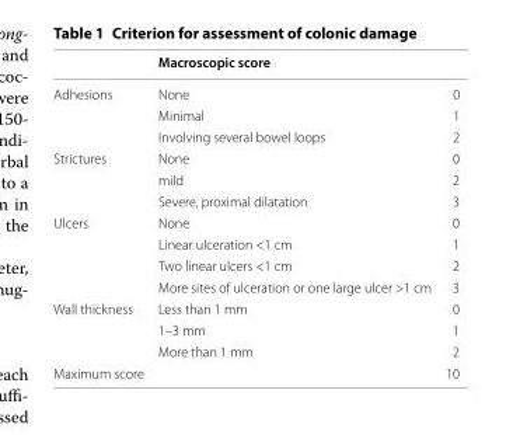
<table><thead><tr><td></td><td>Macroscopic score</td><td></td></tr></thead><tbody><tr><td rowspan="3">Adhesions</td><td>None</td><td>0</td></tr><tr><td>Minimal</td><td>1</td></tr><tr><td>Involving several bowel loops</td><td>2</td></tr><tr><td rowspan="3">Strictures</td><td>None</td><td>0</td></tr><tr><td>mild</td><td>2</td></tr><tr><td>Severe, proximal dilatation</td><td>3</td></tr><tr><td rowspan="4">Ulcers</td><td>None</td><td>0</td></tr><tr><td>Linear ulceration &lt;1 cm</td><td>1</td></tr><tr><td>Two linear ulcers &lt;1 cm</td><td>2</td></tr><tr><td>More sites of ulceration or one large ulcer &gt;1 cm</td><td>3</td></tr><tr><td rowspan="3">Wall thickness</td><td>Less than 1 mm</td><td>0</td></tr><tr><td>1–3 mm</td><td>1</td></tr><tr><td>More than 1 mm</td><td>2</td></tr><tr><td>Maximum score</td><td></td><td>10</td></tr></tbody></table>